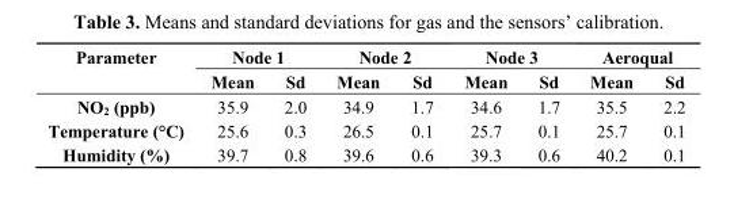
<table><thead><tr><td rowspan="2">Parameter</td><td colspan="2">Node 1</td><td colspan="2">Node 2</td><td colspan="2">Node 3</td><td colspan="2">Aeroqual</td></tr><tr><td>Mean</td><td>Sd</td><td>Mean</td><td>Sd</td><td>Mean</td><td>Sd</td><td>Mean</td><td>Sd</td></tr></thead><tbody><tr><td>NO<sub>2</sub> (ppb)</td><td>35.9</td><td>2.0</td><td>34.9</td><td>1.7</td><td>34.6</td><td>1.7</td><td>35.5</td><td>2.2</td></tr><tr><td>Temperature (°C)</td><td>25.6</td><td>0.3</td><td>26.5</td><td>0.1</td><td>25.7</td><td>0.1</td><td>25.7</td><td>0.1</td></tr><tr><td>Humidity (%)</td><td>39.7</td><td>0.8</td><td>39.6</td><td>0.6</td><td>39.3</td><td>0.6</td><td>40.2</td><td>0.1</td></tr></tbody></table>